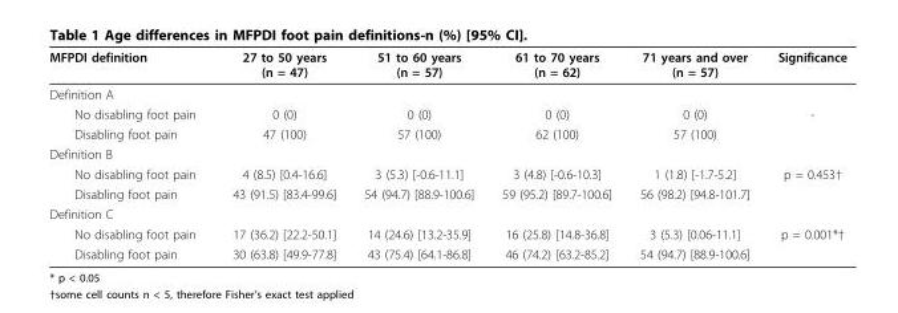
<table><thead><tr><td>MFPDI definition</td><td>27 to 50 years (n = 47)</td><td>51 to 60 years (n = 57)</td><td>61 to 70 years (n = 62)</td><td>71 years and over (n = 57)</td><td>Significance</td></tr></thead><tbody><tr><td colspan="6">Definition A</td></tr><tr><td>No disabling foot pain</td><td>0 (0)</td><td>0 (0)</td><td>0 (0)</td><td>0 (0)</td><td>-</td></tr><tr><td>Disabling foot pain</td><td>47 (100)</td><td>57 (100)</td><td>62 (100)</td><td>57 (100)</td><td></td></tr><tr><td colspan="6">Definition B</td></tr><tr><td>No disabling foot pain</td><td>4 (8.5) [0.4-16.6]</td><td>3 (5.3) [-0.6-11.1]</td><td>3 (4.8) [-0.6-10.3]</td><td>1 (1.8) [-1.7-5.2]</td><td>p = 0.453†</td></tr><tr><td>Disabling foot pain</td><td>43 (91.5) [83.4-99.6]</td><td>54 (94.7) [88.9-100.6]</td><td>59 (95.2) [89.7-100.6]</td><td>56 (98.2) [94.8-101.7]</td><td></td></tr><tr><td colspan="6">Definition C</td></tr><tr><td>No disabling foot pain</td><td>17 (36.2) [22.2-50.1]</td><td>14 (24.6) [13.2-35.9]</td><td>16 (25.8) [14.8-36.8]</td><td>3 (5.3) [0.06-11.1]</td><td>p = 0.001*†</td></tr><tr><td>Disabling foot pain</td><td>30 (63.8) [49.9-77.8]</td><td>43 (75.4) [64.1-86.8]</td><td>46 (74.2) [63.2-85.2]</td><td>54 (94.7) [88.9-100.6]</td><td></td></tr></tbody></table>